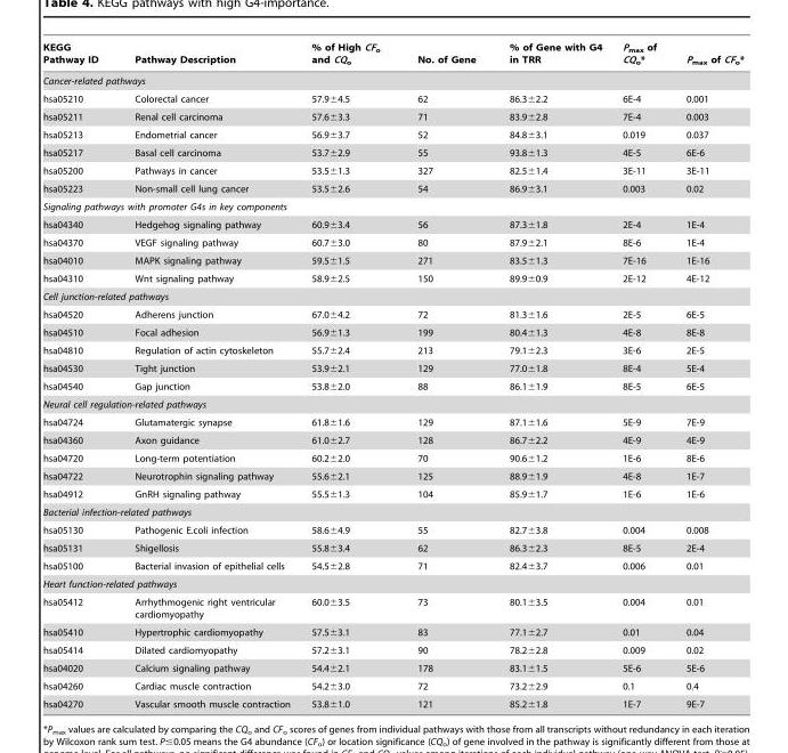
<table><thead><tr><td>KEGG Pathway ID</td><td>Pathway Description</td><td>% of High CF<sub>o</sub> and CQ<sub>o</sub></td><td>No. of Gene</td><td>% of Gene with G4 in TRR</td><td>P<sub>max</sub> of CQ<sub>o</sub>*</td><td>P<sub>max</sub> of CF<sub>o</sub>*</td></tr></thead><tbody><tr><td colspan="7">Cancer-related pathways</td></tr><tr><td>hsa05210</td><td>Colorectal cancer</td><td>57.9±4.5</td><td>62</td><td>86.3±2.2</td><td>6E-4</td><td>0.001</td></tr><tr><td>hsa05211</td><td>Renal cell carcinoma</td><td>57.6±3.3</td><td>71</td><td>83.9±2.8</td><td>7E-4</td><td>0.003</td></tr><tr><td>hsa05213</td><td>Endometrial cancer</td><td>56.9±3.7</td><td>52</td><td>84.8±3.1</td><td>0.019</td><td>0.037</td></tr><tr><td>hsa05217</td><td>Basal cell carcinoma</td><td>53.7±2.9</td><td>55</td><td>93.8±1.3</td><td>4E-5</td><td>6E-6</td></tr><tr><td>hsa05200</td><td>Pathways in cancer</td><td>53.5±1.3</td><td>327</td><td>82.5±1.4</td><td>3E-11</td><td>3E-11</td></tr><tr><td>hsa05223</td><td>Non-small cell lung cancer</td><td>53.5±2.6</td><td>54</td><td>86.9±3.1</td><td>0.003</td><td>0.02</td></tr><tr><td colspan="7">Signaling pathways with promoter G4s in key components</td></tr><tr><td>hsa04340</td><td>Hedgehog signaling pathway</td><td>60.9±3.4</td><td>56</td><td>87.3±1.8</td><td>2E-4</td><td>1E-4</td></tr><tr><td>hsa04370</td><td>VEGF signaling pathway</td><td>60.7±3.0</td><td>80</td><td>87.9±2.1</td><td>8E-6</td><td>1E-4</td></tr><tr><td>hsa04010</td><td>MAPK signaling pathway</td><td>59.5±1.5</td><td>271</td><td>83.5±1.3</td><td>7E-16</td><td>1E-16</td></tr><tr><td>hsa04310</td><td>Wnt signaling pathway</td><td>58.9±2.5</td><td>150</td><td>89.9±0.9</td><td>2E-12</td><td>4E-12</td></tr><tr><td colspan="7">Cell junction-related pathways</td></tr><tr><td>hsa04520</td><td>Adherens junction</td><td>67.0±4.2</td><td>72</td><td>81.3±1.6</td><td>2E-5</td><td>6E-5</td></tr><tr><td>hsa04510</td><td>Focal adhesion</td><td>56.9±1.3</td><td>199</td><td>80.4±1.3</td><td>4E-8</td><td>8E-8</td></tr><tr><td>hsa04810</td><td>Regulation of actin cytoskeleton</td><td>55.7±2.4</td><td>213</td><td>79.1±2.3</td><td>3E-6</td><td>2E-5</td></tr><tr><td>hsa04530</td><td>Tight junction</td><td>53.9±2.1</td><td>129</td><td>77.0±1.8</td><td>8E-4</td><td>5E-4</td></tr><tr><td>hsa04540</td><td>Gap junction</td><td>53.8±2.0</td><td>88</td><td>86.1±1.9</td><td>8E-5</td><td>6E-5</td></tr><tr><td colspan="7">Neural cell regulation-related pathways</td></tr><tr><td>hsa04724</td><td>Glutamatergic synapse</td><td>61.8±1.6</td><td>129</td><td>87.1±1.6</td><td>5E-9</td><td>7E-9</td></tr><tr><td>hsa04360</td><td>Axon guidance</td><td>61.0±2.7</td><td>128</td><td>86.7±2.2</td><td>4E-9</td><td>4E-9</td></tr><tr><td>hsa04720</td><td>Long-term potentiation</td><td>60.2±2.0</td><td>70</td><td>90.6±1.2</td><td>1E-6</td><td>8E-6</td></tr><tr><td>hsa04722</td><td>Neurotrophin signaling pathway</td><td>55.6±2.1</td><td>125</td><td>88.9±1.9</td><td>4E-8</td><td>1E-7</td></tr><tr><td>hsa04912</td><td>GnRH signaling pathway</td><td>55.5±1.3</td><td>104</td><td>85.9±1.7</td><td>1E-6</td><td>1E-6</td></tr><tr><td colspan="7">Bacterial infection-related pathways</td></tr><tr><td>hsa05130</td><td>Pathogenic E.coli infection</td><td>58.6±4.9</td><td>55</td><td>82.7±3.8</td><td>0.004</td><td>0.008</td></tr><tr><td>hsa05131</td><td>Shigellosis</td><td>55.8±3.4</td><td>62</td><td>86.3±2.3</td><td>8E-5</td><td>2E-4</td></tr><tr><td>hsa05100</td><td>Bacterial invasion of epithelial cells</td><td>54.5±2.8</td><td>71</td><td>82.4±3.7</td><td>0.006</td><td>0.01</td></tr><tr><td colspan="7">Heart function-related pathways</td></tr><tr><td>hsa05412</td><td>Arrhythmogenic right ventricular cardiomyopathy</td><td>60.0±3.5</td><td>73</td><td>80.1±3.5</td><td>0.004</td><td>0.01</td></tr><tr><td>hsa05410</td><td>Hypertrophic cardiomyopathy</td><td>57.5±3.1</td><td>83</td><td>77.1±2.7</td><td>0.01</td><td>0.04</td></tr><tr><td>hsa05414</td><td>Dilated cardiomyopathy</td><td>57.2±3.1</td><td>90</td><td>78.2±2.8</td><td>0.009</td><td>0.02</td></tr><tr><td>hsa04020</td><td>Calcium signaling pathway</td><td>54.4±2.1</td><td>178</td><td>83.1±1.5</td><td>5E-6</td><td>5E-6</td></tr><tr><td>hsa04260</td><td>Cardiac muscle contraction</td><td>54.2±3.0</td><td>72</td><td>73.2±2.9</td><td>0.1</td><td>0.4</td></tr><tr><td>hsa04270</td><td>Vascular smooth muscle contraction</td><td>53.8±1.0</td><td>121</td><td>85.2±1.8</td><td>1E-7</td><td>9E-7</td></tr></tbody></table>